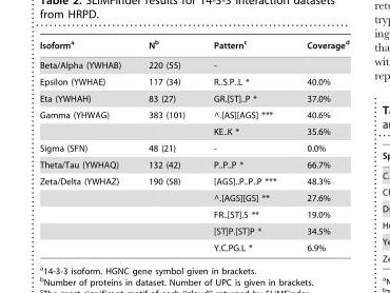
<table><thead><tr><td>Isoform<sup>a</sup></td><td>N<sup>b</sup></td><td>Pattern<sup>c</sup></td><td>Coverage<sup>d</sup></td></tr></thead><tbody><tr><td>Beta/Alpha (YWHAB)</td><td>220 (55)</td><td>-</td><td></td></tr><tr><td>Epsilon (YWHAE)</td><td>117 (34)</td><td>R..S.P..L *</td><td>40.0%</td></tr><tr><td>Eta (YWHAH)</td><td>83 (27)</td><td>GR.[ST]..P *</td><td>37.0%</td></tr><tr><td rowspan="2">Gamma (YHWAG)</td><td>383 (101)</td><td>^.[AS][AGS] ***</td><td>40.6%</td></tr><tr><td></td><td>KE..K *</td><td>35.6%</td></tr><tr><td>Sigma (SFN)</td><td>48 (21)</td><td>-</td><td>0.0%</td></tr><tr><td>Theta/Tau (YWHAQ)</td><td>132 (42)</td><td>P..P..P *</td><td>66.7%</td></tr><tr><td rowspan="5">Zeta/Delta (YWHAZ)</td><td>190 (58)</td><td>[AGS]..P..P..P ***</td><td>48.3%</td></tr><tr><td></td><td>^.[AGS][GS] **</td><td>27.6%</td></tr><tr><td></td><td>FR..[ST].S **</td><td>19.0%</td></tr><tr><td></td><td>[ST]P.[ST]P *</td><td>34.5%</td></tr><tr><td></td><td>Y.C.PG.L *</td><td>6.9%</td></tr></tbody></table>